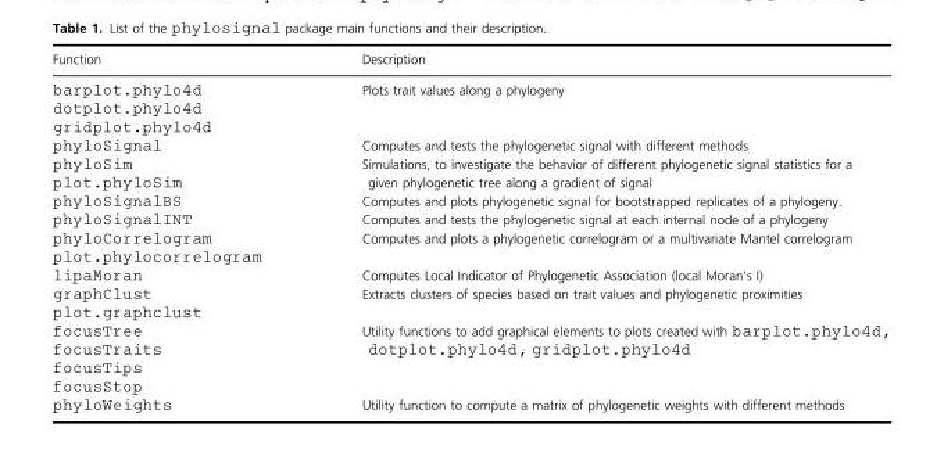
<table><thead><tr><td>Function</td><td>Description</td></tr></thead><tbody><tr><td>barplot.phylo4d dotplot.phylo4d gridplot.phylo4d</td><td>Plots trait values along a phylogeny</td></tr><tr><td>phyloSignal</td><td>Computes and tests the phylogenetic signal with different methods</td></tr><tr><td>phyloSim plot.phyloSim</td><td>Simulations, to investigate the behavior of different phylogenetic signal statistics for a given phylogenetic tree along a gradient of signal</td></tr><tr><td>phyloSignalBS</td><td>Computes and plots phylogenetic signal for bootstrapped replicates of a phylogeny.</td></tr><tr><td>phyloSignalINT</td><td>Computes and tests the phylogenetic signal at each internal node of a phylogeny</td></tr><tr><td>phyloCorrelogram plot.phylocorrelogram</td><td>Computes and plots a phylogenetic correlogram or a multivariate Mantel correlogram</td></tr><tr><td>lipaMoran</td><td>Computes Local Indicator of Phylogenetic Association (local Moran’s I)</td></tr><tr><td>graphClust plot.graphclust</td><td>Extracts clusters of species based on trait values and phylogenetic proximities</td></tr><tr><td>focusTree focusTraits focusTips focusStop</td><td>Utility functions to add graphical elements to plots created with barplot.phylo4d, dotplot.phylo4d, gridplot.phylo4d</td></tr><tr><td>phyloWeights</td><td>Utility function to compute a matrix of phylogenetic weights with different methods</td></tr></tbody></table>